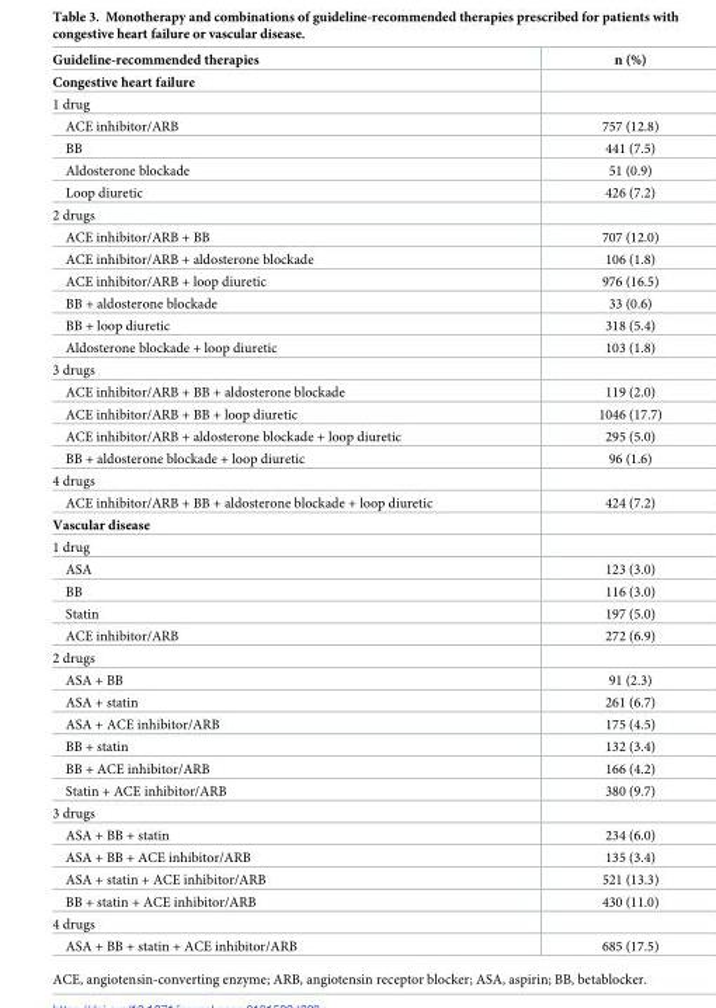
<table><thead><tr><td>Guideline-recommended therapies</td><td>n (%)</td></tr></thead><tbody><tr><td colspan="2">Congestive heart failure</td></tr><tr><td colspan="2">1 drug</td></tr><tr><td>ACE inhibitor/ARB</td><td>757 (12.8)</td></tr><tr><td>BB</td><td>441 (7.5)</td></tr><tr><td>Aldosterone blockade</td><td>51 (0.9)</td></tr><tr><td>Loop diuretic</td><td>426 (7.2)</td></tr><tr><td colspan="2">2 drugs</td></tr><tr><td>ACE inhibitor/ARB + BB</td><td>707 (12.0)</td></tr><tr><td>ACE inhibitor/ARB + aldosterone blockade</td><td>106 (1.8)</td></tr><tr><td>ACE inhibitor/ARB + loop diuretic</td><td>976 (16.5)</td></tr><tr><td>BB + aldosterone blockade</td><td>33 (0.6)</td></tr><tr><td>BB + loop diuretic</td><td>318 (5.4)</td></tr><tr><td>Aldosterone blockade + loop diuretic</td><td>103 (1.8)</td></tr><tr><td colspan="2">3 drugs</td></tr><tr><td>ACE inhibitor/ARB + BB + aldosterone blockade</td><td>119 (2.0)</td></tr><tr><td>ACE inhibitor/ARB + BB + loop diuretic</td><td>1046 (17.7)</td></tr><tr><td>ACE inhibitor/ARB + aldosterone blockade + loop diuretic</td><td>295 (5.0)</td></tr><tr><td>BB + aldosterone blockade + loop diuretic</td><td>96 (1.6)</td></tr><tr><td colspan="2">4 drugs</td></tr><tr><td>ACE inhibitor/ARB + BB + aldosterone blockade + loop diuretic</td><td>424 (7.2)</td></tr><tr><td colspan="2">Vascular disease</td></tr><tr><td colspan="2">1 drug</td></tr><tr><td>ASA</td><td>123 (3.0)</td></tr><tr><td>BB</td><td>116 (3.0)</td></tr><tr><td>Statin</td><td>197 (5.0)</td></tr><tr><td>ACE inhibitor/ARB</td><td>272 (6.9)</td></tr><tr><td colspan="2">2 drugs</td></tr><tr><td>ASA + BB</td><td>91 (2.3)</td></tr><tr><td>ASA + statin</td><td>261 (6.7)</td></tr><tr><td>ASA + ACE inhibitor/ARB</td><td>175 (4.5)</td></tr><tr><td>BB + statin</td><td>132 (3.4)</td></tr><tr><td>BB + ACE inhibitor/ARB</td><td>166 (4.2)</td></tr><tr><td>Statin + ACE inhibitor/ARB</td><td>380 (9.7)</td></tr><tr><td colspan="2">3 drugs</td></tr><tr><td>ASA + BB + statin</td><td>234 (6.0)</td></tr><tr><td>ASA + BB + ACE inhibitor/ARB</td><td>135 (3.4)</td></tr><tr><td>ASA + statin + ACE inhibitor/ARB</td><td>521 (13.3)</td></tr><tr><td>BB + statin + ACE inhibitor/ARB</td><td>430 (11.0)</td></tr><tr><td colspan="2">4 drugs</td></tr><tr><td>ASA + BB + statin + ACE inhibitor/ARB</td><td>685 (17.5)</td></tr></tbody></table>